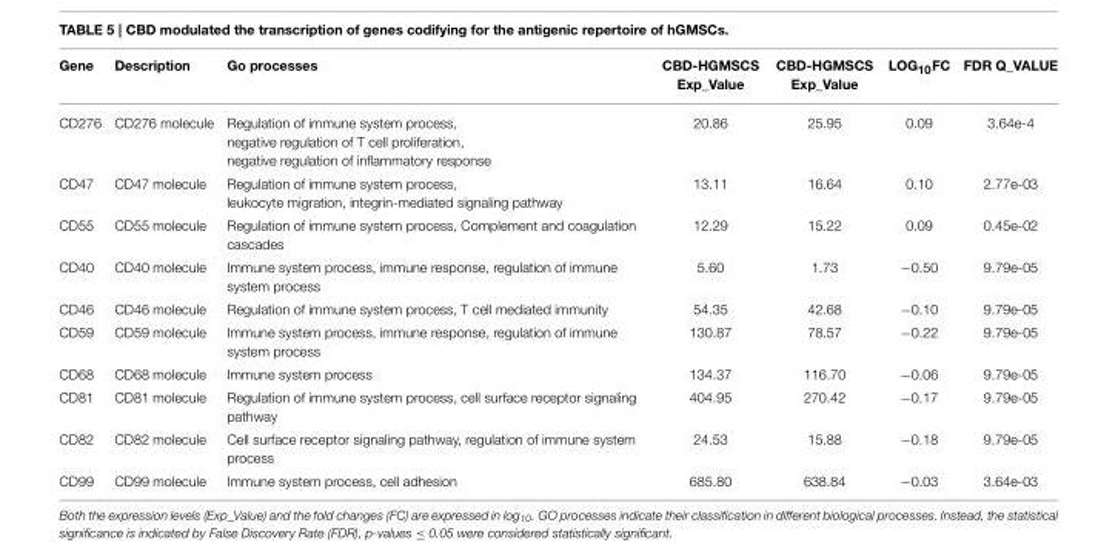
<table><thead><tr><td>Gene</td><td>Description</td><td>Go processes</td><td>CBD-HGMSCS Exp_Value</td><td>CBD-HGMSCS Exp_Value</td><td>LOG<sub>10</sub>FC</td><td>FDR Q_VALUE</td></tr></thead><tbody><tr><td>CD276</td><td>CD276 molecule</td><td>Regulation of immune system process, negative regulation of T cell proliferation, negative regulation of inflammatory response</td><td>20.86</td><td>25.95</td><td>0.09</td><td>3.64e-4</td></tr><tr><td>CD47</td><td>CD47 molecule</td><td>Regulation of immune system process, leukocyte migration, integrin-mediated signaling pathway</td><td>13.11</td><td>16.64</td><td>0.10</td><td>2.77e-03</td></tr><tr><td>CD55</td><td>CD55 molecule</td><td>Regulation of immune system process, Complement and coagulation cascades</td><td>12.29</td><td>15.22</td><td>0.09</td><td>0.45e-02</td></tr><tr><td>CD40</td><td>CD40 molecule</td><td>Immune system process, immune response, regulation of immune system process</td><td>5.60</td><td>1.73</td><td>−0.50</td><td>9.79e-05</td></tr><tr><td>CD46</td><td>CD46 molecule</td><td>Regulation of immune system process, T cell mediated immunity</td><td>54.35</td><td>42.68</td><td>−0.10</td><td>9.79e-05</td></tr><tr><td>CD59</td><td>CD59 molecule</td><td>Immune system process, immune response, regulation of immune system process</td><td>130.87</td><td>78.57</td><td>−0.22</td><td>9.79e-05</td></tr><tr><td>CD68</td><td>CD68 molecule</td><td>Immune system process</td><td>134.37</td><td>116.70</td><td>−0.06</td><td>9.79e-05</td></tr><tr><td>CD81</td><td>CD81 molecule</td><td>Regulation of immune system process, cell surface receptor signaling pathway</td><td>404.95</td><td>270.42</td><td>−0.17</td><td>9.79e-05</td></tr><tr><td>CD82</td><td>CD82 molecule</td><td>Cell surface receptor signaling pathway, regulation of immune system process</td><td>24.53</td><td>15.88</td><td>−0.18</td><td>9.79e-05</td></tr><tr><td>CD99</td><td>CD99 molecule</td><td>Immune system process, cell adhesion</td><td>685.80</td><td>638.84</td><td>−0.03</td><td>3.64e-03</td></tr></tbody></table>